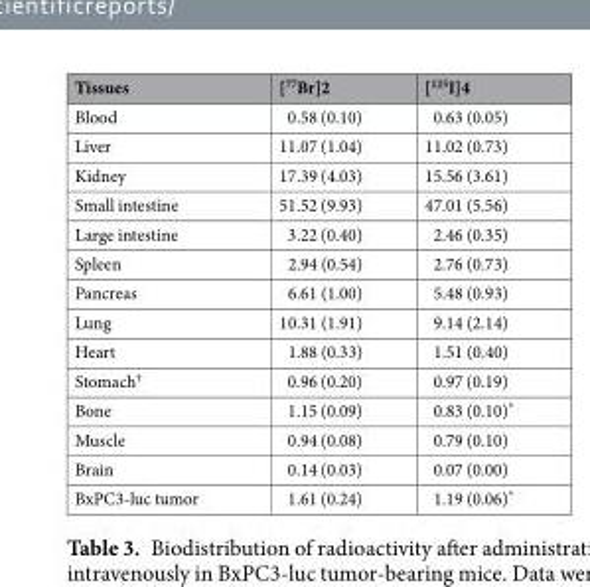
<table><thead><tr><td>Tissues</td><td>[<sup>77</sup>Br]2</td><td>[<sup>125</sup>I]4</td></tr></thead><tbody><tr><td>Blood</td><td>0.58 (0.10)</td><td>0.63 (0.05)</td></tr><tr><td>Liver</td><td>11.07 (1.04)</td><td>11.02 (0.73)</td></tr><tr><td>Kidney</td><td>17.39 (4.03)</td><td>15.56 (3.61)</td></tr><tr><td>Small intestine</td><td>51.52 (9.93)</td><td>47.01 (5.56)</td></tr><tr><td>Large intestine</td><td>3.22 (0.40)</td><td>2.46 (0.35)</td></tr><tr><td>Spleen</td><td>2.94 (0.54)</td><td>2.76 (0.73)</td></tr><tr><td>Pancreas</td><td>6.61 (1.00)</td><td>5.48 (0.93)</td></tr><tr><td>Lung</td><td>10.31 (1.91)</td><td>9.14 (2.14)</td></tr><tr><td>Heart</td><td>1.88 (0.33)</td><td>1.51 (0.40)</td></tr><tr><td>Stomach<sup>†</sup></td><td>0.96 (0.20)</td><td>0.97 (0.19)</td></tr><tr><td>Bone</td><td>1.15 (0.09)</td><td>0.83 (0.10)*</td></tr><tr><td>Muscle</td><td>0.94 (0.08)</td><td>0.79 (0.10)</td></tr><tr><td>Brain</td><td>0.14 (0.03)</td><td>0.07 (0.00)</td></tr><tr><td>BxPC3-luc tumor</td><td>1.61 (0.24)</td><td>1.19 (0.06)*</td></tr></tbody></table>